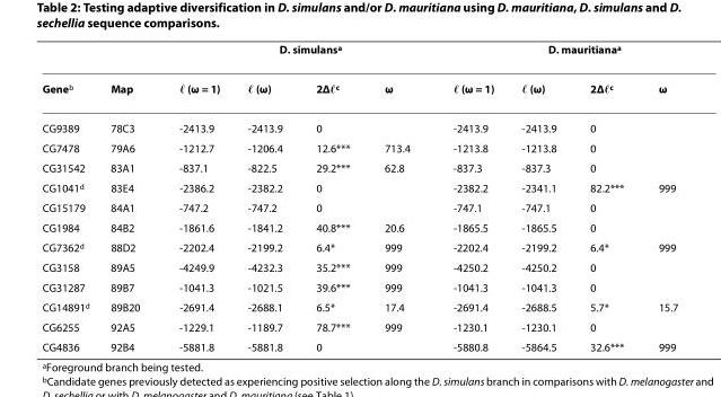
<table><thead><tr><td rowspan="2">Gene<sup>b</sup></td><td rowspan="2">Map</td><td colspan="4">D. simulans<sup>a</sup></td><td colspan="4">D. mauritiana<sup>a</sup></td></tr><tr><td>ℓ (ω = 1)</td><td>ℓ (ω)</td><td>2Δℓ<sup>c</sup></td><td>ω</td><td>ℓ (ω = 1)</td><td>ℓ (ω)</td><td>2Δℓ<sup>c</sup></td><td>ω</td></tr></thead><tbody><tr><td>CG9389</td><td>78C3</td><td>-2413.9</td><td>-2413.9</td><td>0</td><td></td><td>-2413.9</td><td>-2413.9</td><td>0</td><td></td></tr><tr><td>CG7478</td><td>79A6</td><td>-1212.7</td><td>-1206.4</td><td>12.6***</td><td>713.4</td><td>-1213.8</td><td>-1213.8</td><td>0</td><td></td></tr><tr><td>CG31542</td><td>83A1</td><td>-837.1</td><td>-822.5</td><td>29.2***</td><td>62.8</td><td>-837.3</td><td>-837.3</td><td>0</td><td></td></tr><tr><td>CG1041<sup>d</sup></td><td>83E4</td><td>-2386.2</td><td>-2382.2</td><td>0</td><td></td><td>-2382.2</td><td>-2341.1</td><td>82.2***</td><td>999</td></tr><tr><td>CG15179</td><td>84A1</td><td>-747.2</td><td>-747.2</td><td>0</td><td></td><td>-747.1</td><td>-747.1</td><td>0</td><td></td></tr><tr><td>CG1984</td><td>84B2</td><td>-1861.6</td><td>-1841.2</td><td>40.8***</td><td>20.6</td><td>-1865.5</td><td>-1865.5</td><td>0</td><td></td></tr><tr><td>CG7362<sup>d</sup></td><td>88D2</td><td>-2202.4</td><td>-2199.2</td><td>6.4*</td><td>999</td><td>-2202.4</td><td>-2199.2</td><td>6.4*</td><td>999</td></tr><tr><td>CG3158</td><td>89A5</td><td>-4249.9</td><td>-4232.3</td><td>35.2***</td><td>999</td><td>-4250.2</td><td>-4250.2</td><td>0</td><td></td></tr><tr><td>CG31287</td><td>89B7</td><td>-1041.3</td><td>-1021.5</td><td>39.6***</td><td>999</td><td>-1041.3</td><td>-1041.3</td><td>0</td><td></td></tr><tr><td>CG14891<sup>d</sup></td><td>89B20</td><td>-2691.4</td><td>-2688.1</td><td>6.5*</td><td>17.4</td><td>-2691.4</td><td>-2688.5</td><td>5.7*</td><td>15.7</td></tr><tr><td>CG6255</td><td>92A5</td><td>-1229.1</td><td>-1189.7</td><td>78.7***</td><td>999</td><td>-1230.1</td><td>-1230.1</td><td>0</td><td></td></tr><tr><td>CG4836</td><td>92B4</td><td>-5881.8</td><td>-5881.8</td><td>0</td><td></td><td>-5880.8</td><td>-5864.5</td><td>32.6***</td><td>999</td></tr></tbody></table>